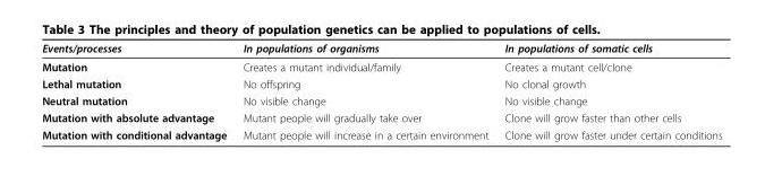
<table><thead><tr><td>Events/processes</td><td>In populations of organisms</td><td>In populations of somatic cells</td></tr></thead><tbody><tr><td>Mutation</td><td>Creates a mutant individual/family</td><td>Creates a mutant cell/clone</td></tr><tr><td>Lethal mutation</td><td>No offspring</td><td>No clonal growth</td></tr><tr><td>Neutral mutation</td><td>No visible change</td><td>No visible change</td></tr><tr><td>Mutation with absolute advantage</td><td>Mutant people will gradually take over</td><td>Clone will grow faster than other cells</td></tr><tr><td>Mutation with conditional advantage</td><td>Mutant people will increase in a certain environment</td><td>Clone will grow faster under certain conditions</td></tr></tbody></table>